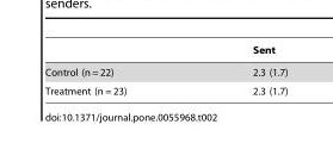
<table><thead><tr><td></td><td>Sent</td></tr></thead><tbody><tr><td>Control (n = 22)</td><td>2.3 (1.7)</td></tr><tr><td>Treatment (n = 23)</td><td>2.3 (1.7)</td></tr></tbody></table>